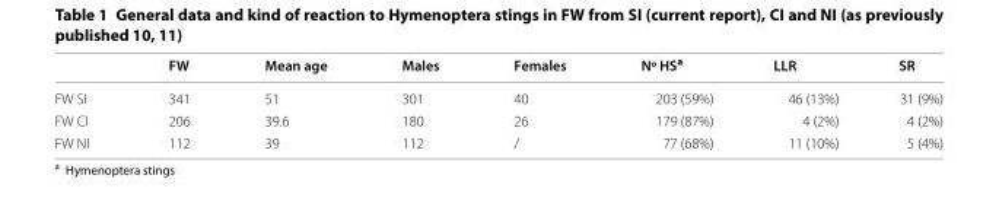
<table><thead><tr><td></td><td>FW</td><td>Mean age</td><td>Males</td><td>Females</td><td>Nº HS<sup>a</sup></td><td>LLR</td><td>SR</td></tr></thead><tbody><tr><td>FW SI</td><td>341</td><td>51</td><td>301</td><td>40</td><td>203 (59%)</td><td>46 (13%)</td><td>31 (9%)</td></tr><tr><td>FW CI</td><td>206</td><td>39.6</td><td>180</td><td>26</td><td>179 (87%)</td><td>4 (2%)</td><td>4 (2%)</td></tr><tr><td>FW NI</td><td>112</td><td>39</td><td>112</td><td>/</td><td>77 (68%)</td><td>11 (10%)</td><td>5 (4%)</td></tr></tbody></table>